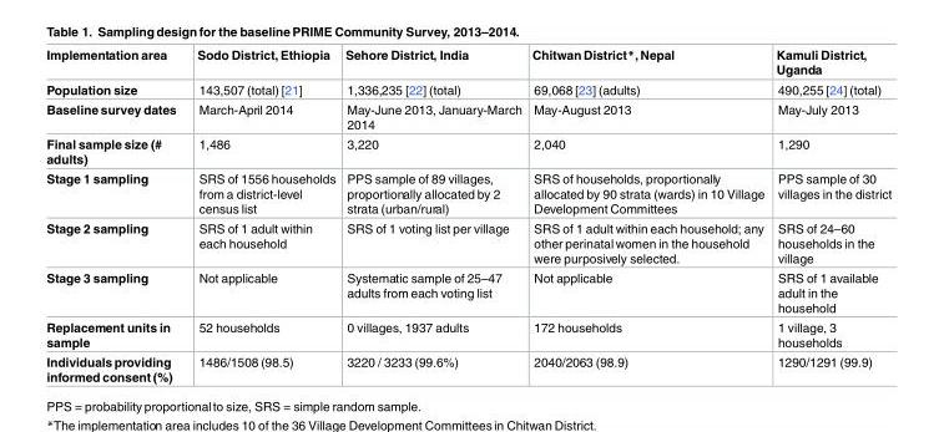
<table><thead><tr><td>Implementation area</td><td>Sodo District, Ethiopia</td><td>Sehore District, India</td><td>Chitwan District*, Nepal</td><td>Kamuli District, Uganda</td></tr></thead><tbody><tr><td>Population size</td><td>143,507 (total) [21]</td><td>1,336,235 [22] (total)</td><td>69,068 [23] (adults)</td><td>490,255 [24] (total)</td></tr><tr><td>Baseline survey dates</td><td>March-April 2014</td><td>May-June 2013, January-March 2014</td><td>May-August 2013</td><td>May-July 2013</td></tr><tr><td>Final sample size (# adults)</td><td>1,486</td><td>3,220</td><td>2,040</td><td>1,290</td></tr><tr><td>Stage 1 sampling</td><td>SRS of 1556 households from a district-level census list</td><td>PPS sample of 89 villages, proportionally allocated by 2 strata (urban/rural)</td><td>SRS of households, proportionally allocated by 90 strata (wards) in 10 Village Development Committees</td><td>PPS sample of 30 villages in the district</td></tr><tr><td>Stage 2 sampling</td><td>SRS of 1 adult within each household</td><td>SRS of 1 voting list per village</td><td>SRS of 1 adult within each household; any other perinatal women in the household were purposively selected.</td><td>SRS of 24–60 households in the village</td></tr><tr><td>Stage 3 sampling</td><td>Not applicable</td><td>Systematic sample of 25–47 adults from each voting list</td><td>Not applicable</td><td>SRS of 1 available adult in the household</td></tr><tr><td>Replacement units in sample</td><td>52 households</td><td>0 villages, 1937 adults</td><td>172 households</td><td>1 village, 3 households</td></tr><tr><td>Individualsproviding informed consent (%)</td><td>1486/1508 (98.5)</td><td>3220 / 3233 (99.6%)</td><td>2040/2063 (98.9)</td><td>1290/1291 (99.9)</td></tr></tbody></table>